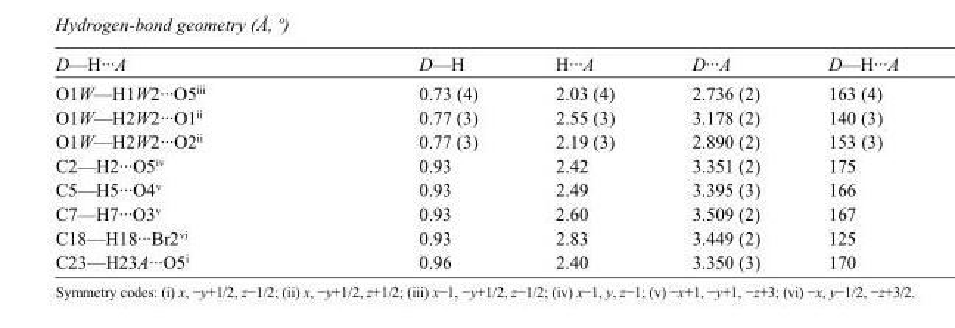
<table><tbody><tr><td>D—H···A</td><td>D—H</td><td>H···A</td><td>D···A</td><td>D—H···A</td></tr><tr><td>O1W—H1W2···O5<sup>iii</sup></td><td>0.73 (4)</td><td>2.03 (4)</td><td>2.736 (2)</td><td>163 (4)</td></tr><tr><td>O1W—H2W2···O1<sup>ii</sup></td><td>0.77 (3)</td><td>2.55 (3)</td><td>3.178 (2)</td><td>140 (3)</td></tr><tr><td>O1W—H2W2···O2<sup>ii</sup></td><td>0.77 (3)</td><td>2.19 (3)</td><td>2.890 (2)</td><td>153 (3)</td></tr><tr><td>C2—H2···O5<sup>iv</sup></td><td>0.93</td><td>2.42</td><td>3.351 (2)</td><td>175</td></tr><tr><td>C5—H5···O4<sup>v</sup></td><td>0.93</td><td>2.49</td><td>3.395 (3)</td><td>166</td></tr><tr><td>C7—H7···O3<sup>v</sup></td><td>0.93</td><td>2.60</td><td>3.509 (2)</td><td>167</td></tr><tr><td>C18—H18···Br2<sup>vi</sup></td><td>0.93</td><td>2.83</td><td>3.449 (2)</td><td>125</td></tr><tr><td>C23—H23A···O5<sup>i</sup></td><td>0.96</td><td>2.40</td><td>3.350 (3)</td><td>170</td></tr></tbody></table>